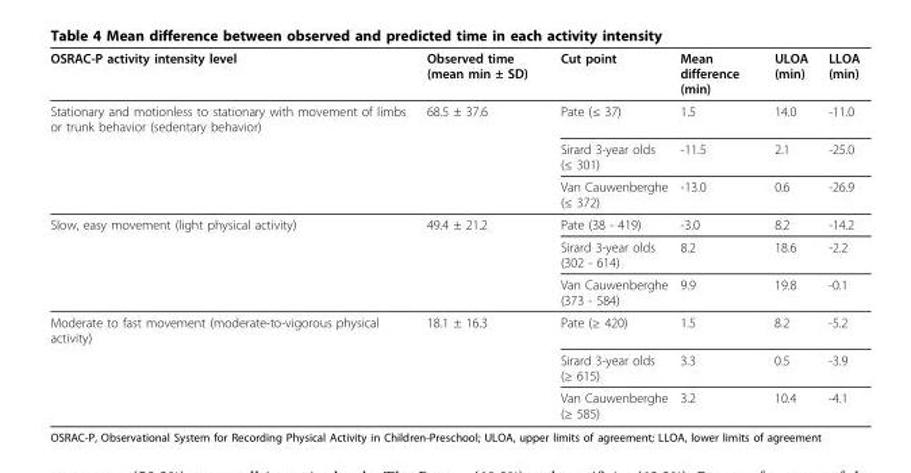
<table><thead><tr><td>OSRAC-P activity intensity level</td><td>Observed time (mean min ± SD)</td><td>Cut point</td><td>Mean difference (min)</td><td>ULOA (min)</td><td>LLOA (min)</td></tr></thead><tbody><tr><td rowspan="3">Stationary and motionless to stationary with movement of limbs or trunk behavior (sedentary behavior)</td><td>68.5 ± 37.6</td><td>Pate (≤ 37)</td><td>1.5</td><td>14.0</td><td>-11.0</td></tr><tr><td></td><td>Sirard 3-year olds (≤ 301)</td><td>-11.5</td><td>2.1</td><td>-25.0</td></tr><tr><td></td><td>Van Cauwenberghe (≤ 372)</td><td>-13.0</td><td>0.6</td><td>-26.9</td></tr><tr><td rowspan="3">Slow, easy movement (light physical activity)</td><td>49.4 ± 21.2</td><td>Pate (38 - 419)</td><td>-3.0</td><td>8.2</td><td>-14.2</td></tr><tr><td></td><td>Sirard 3-year olds (302 - 614)</td><td>8.2</td><td>18.6</td><td>-2.2</td></tr><tr><td></td><td>Van Cauwenberghe (373 - 584)</td><td>9.9</td><td>19.8</td><td>-0.1</td></tr><tr><td rowspan="3">Moderate to fast movement (moderate-to-vigorous physical activity)</td><td>18.1 ± 16.3</td><td>Pate (≥ 420)</td><td>1.5</td><td>8.2</td><td>-5.2</td></tr><tr><td></td><td>Sirard 3-year olds (≥ 615)</td><td>3.3</td><td>0.5</td><td>-3.9</td></tr><tr><td></td><td>Van Cauwenberghe (≥ 585)</td><td>3.2</td><td>10.4</td><td>-4.1</td></tr></tbody></table>